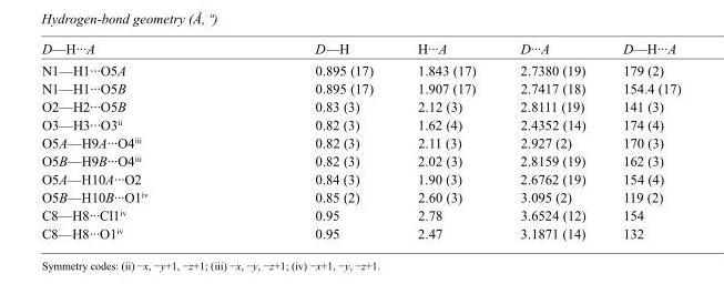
<table><tbody><tr><td>D—H···A</td><td>D—H</td><td>H···A</td><td>D···A</td><td>D—H···A</td></tr><tr><td>N1—H1···O5A</td><td>0.895 (17)</td><td>1.843 (17)</td><td>2.7380 (19)</td><td>179 (2)</td></tr><tr><td>N1—H1···O5B</td><td>0.895 (17)</td><td>1.907 (17)</td><td>2.7417 (18)</td><td>154.4 (17)</td></tr><tr><td>O2—H2···O5B</td><td>0.83 (3)</td><td>2.12 (3)</td><td>2.8111 (19)</td><td>141 (3)</td></tr><tr><td>O3—H3···O3<sup>ii</sup></td><td>0.82 (3)</td><td>1.62 (4)</td><td>2.4352 (14)</td><td>174 (4)</td></tr><tr><td>O5A—H9A···O4<sup>iii</sup></td><td>0.82 (3)</td><td>2.11 (3)</td><td>2.927 (2)</td><td>170 (3)</td></tr><tr><td>O5B—H9B···O4<sup>iii</sup></td><td>0.82 (3)</td><td>2.02 (3)</td><td>2.8159 (19)</td><td>162 (3)</td></tr><tr><td>O5A—H10A···O2</td><td>0.84 (3)</td><td>1.90 (3)</td><td>2.6762 (19)</td><td>154 (4)</td></tr><tr><td>O5B—H10B···O1<sup>iv</sup></td><td>0.85 (2)</td><td>2.60 (3)</td><td>3.095 (2)</td><td>119 (2)</td></tr><tr><td>C8—H8···Cl1<sup>iv</sup></td><td>0.95</td><td>2.78</td><td>3.6524 (12)</td><td>154</td></tr><tr><td>C8—H8···O1<sup>iv</sup></td><td>0.95</td><td>2.47</td><td>3.1871 (14)</td><td>132</td></tr></tbody></table>